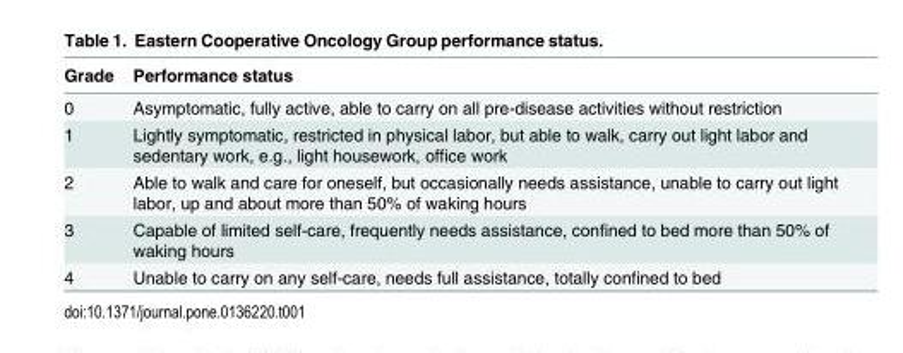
<table><thead><tr><td>Grade</td><td>Performance status</td></tr></thead><tbody><tr><td>0</td><td>Asymptomatic, fully active, able to carry on all pre-disease activities without restriction</td></tr><tr><td>1</td><td>Lightly symptomatic, restricted in physical labor, but able to walk, carry out light labor and sedentary work, e.g., light housework, office work</td></tr><tr><td>2</td><td>Able to walk and care for oneself, but occasionally needs assistance, unable to carry out light labor, up and about more than 50% of waking hours</td></tr><tr><td>3</td><td>Capable of limited self-care, frequently needs assistance, confined to bed more than 50% of waking hours</td></tr><tr><td>4</td><td>Unable to carry on any self-care, needs full assistance, totally confined to bed</td></tr></tbody></table>